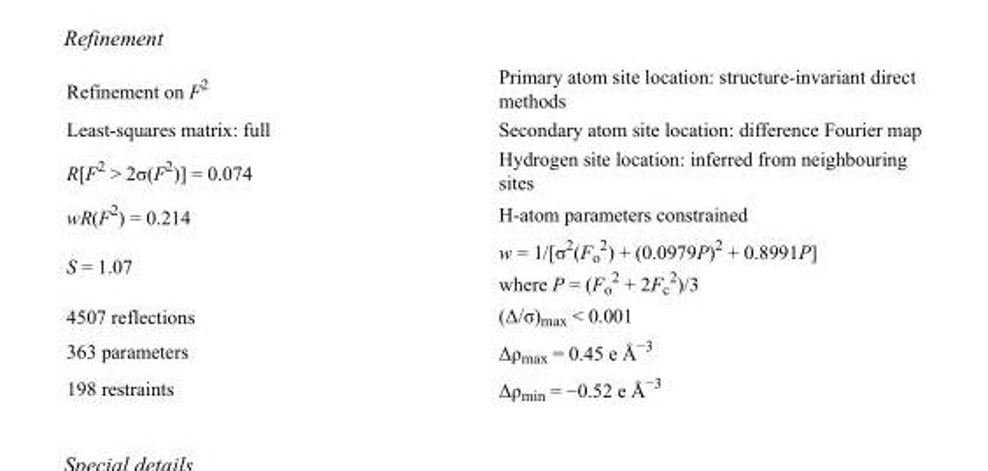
<table><tbody><tr><td>Refinement on F<sup>2</sup></td><td>Primary atom site location: structure-invariant direct methods</td></tr><tr><td>Least-squares matrix: full</td><td>Secondary atom site location: difference Fourier map</td></tr><tr><td>R[F<sup>2</sup> &gt; 2σ(F<sup>2</sup>)] = 0.074</td><td>Hydrogen site location: inferred from neighbouring sites</td></tr><tr><td>wR(F<sup>2</sup>) = 0.214</td><td>H-atom parameters constrained</td></tr><tr><td>S = 1.07</td><td>w = 1/[σ<sup>2</sup>(F<sub>o</sub> <sup>2</sup>) + (0.0979P)<sup>2</sup> + 0.8991P] where P = (F<sub>o</sub> <sup>2</sup> + 2F<sub>c</sub> <sup>2</sup>)/3</td></tr><tr><td>4507 reflections</td><td>(Δ/σ)<sub>max</sub> &lt; 0.001</td></tr><tr><td>363 parameters</td><td>Δρ<sub>max</sub> = 0.45 e Å<sup>−3</sup></td></tr><tr><td>198 restraints</td><td>Δρ<sub>min</sub> = −0.52 e Å<sup>−3</sup></td></tr></tbody></table>